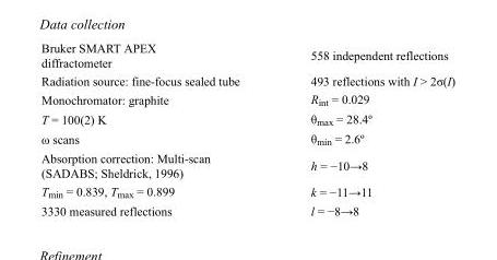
<table><tbody><tr><td>Bruker SMART APEX diffractometer</td><td>558 independent reflections</td></tr><tr><td>Radiation source: fine-focus sealed tube</td><td>493 reflections with I &gt; 2σ(I)</td></tr><tr><td>Monochromator: graphite</td><td>R<sub>int</sub> = 0.029</td></tr><tr><td>T = 100(2) K</td><td>θ<sub>max</sub> = 28.4º</td></tr><tr><td>ω scans</td><td>θ<sub>min</sub> = 2.6º</td></tr><tr><td>Absorption correction: Multi-scan (SADABS; Sheldrick, 1996)</td><td>h = −10→8</td></tr><tr><td>T<sub>min</sub> = 0.839, T<sub>max</sub> = 0.899</td><td>k = −11→11</td></tr><tr><td>3330 measured reflections</td><td>l = −8→8</td></tr></tbody></table>